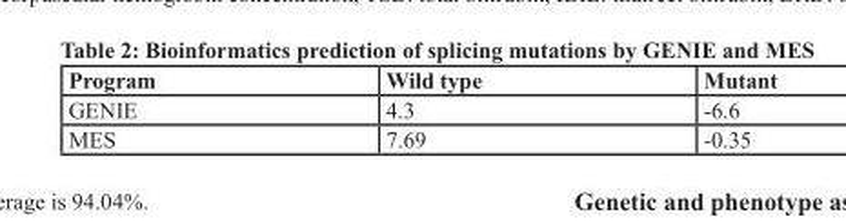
<table><thead><tr><td>Program</td><td>Wild type</td><td>Mutant</td></tr></thead><tbody><tr><td>GENIE</td><td>4.3</td><td>-6.6</td></tr><tr><td>MES</td><td>7.69</td><td>-0.35</td></tr></tbody></table>